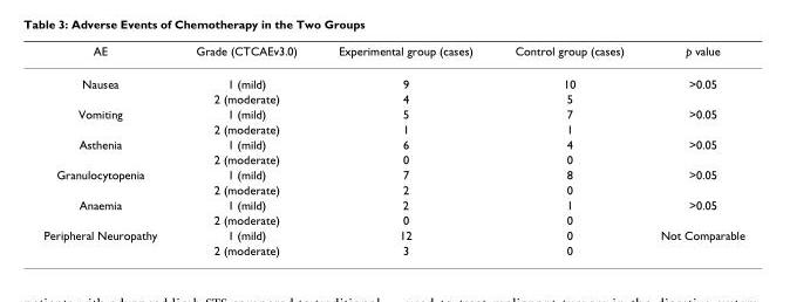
<table><thead><tr><td>AE</td><td>Grade (CTCAEv3.0)</td><td>Experimental group (cases)</td><td>Control group (cases)</td><td>p value</td></tr></thead><tbody><tr><td rowspan="2">Nausea</td><td>1 (mild)</td><td>9</td><td>10</td><td>&gt;0.05</td></tr><tr><td>2 (moderate)</td><td>4</td><td>5</td><td></td></tr><tr><td rowspan="2">Vomiting</td><td>1 (mild)</td><td>5</td><td>7</td><td>&gt;0.05</td></tr><tr><td>2 (moderate)</td><td>1</td><td>1</td><td></td></tr><tr><td rowspan="2">Asthenia</td><td>1 (mild)</td><td>6</td><td>4</td><td>&gt;0.05</td></tr><tr><td>2 (moderate)</td><td>0</td><td>0</td><td></td></tr><tr><td rowspan="2">Granulocytopenia</td><td>1 (mild)</td><td>7</td><td>8</td><td>&gt;0.05</td></tr><tr><td>2 (moderate)</td><td>2</td><td>0</td><td></td></tr><tr><td rowspan="2">Anaemia</td><td>1 (mild)</td><td>2</td><td>1</td><td>&gt;0.05</td></tr><tr><td>2 (moderate)</td><td>0</td><td>0</td><td></td></tr><tr><td rowspan="2">Peripheral Neuropathy</td><td>1 (mild)</td><td>12</td><td>0</td><td>Not Comparable</td></tr><tr><td>2 (moderate)</td><td>3</td><td>0</td><td></td></tr></tbody></table>